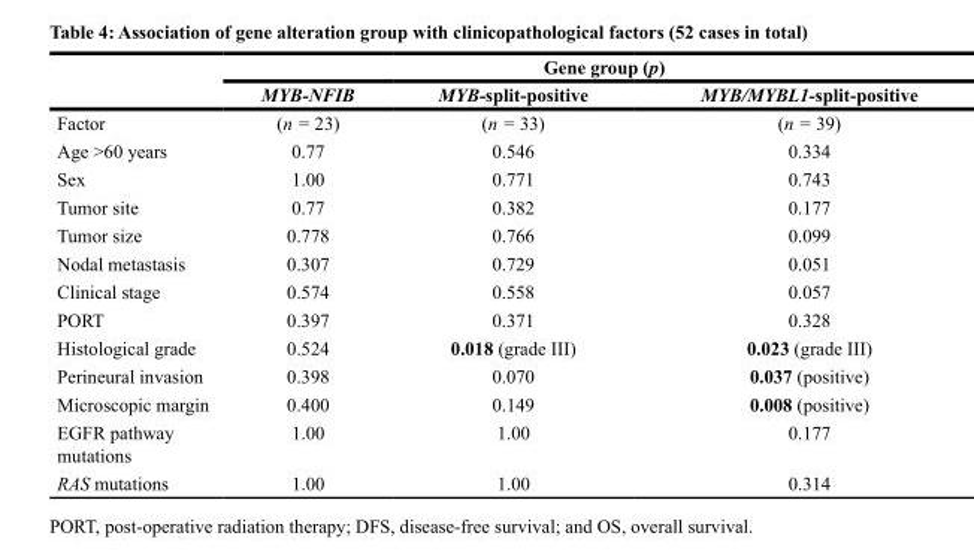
<table><thead><tr><td rowspan="2"></td><td colspan="3">Gene group (p)</td></tr><tr><td>MYB-NFIB</td><td>MYB-split-positive</td><td>MYB/MYBL1-split-positive</td></tr></thead><tbody><tr><td>Factor</td><td>(n = 23)</td><td>(n = 33)</td><td>(n = 39)</td></tr><tr><td>Age &gt;60 years</td><td>0.77</td><td>0.546</td><td>0.334</td></tr><tr><td>Sex</td><td>1.00</td><td>0.771</td><td>0.743</td></tr><tr><td>Tumor site</td><td>0.77</td><td>0.382</td><td>0.177</td></tr><tr><td>Tumor size</td><td>0.778</td><td>0.766</td><td>0.099</td></tr><tr><td>Nodal metastasis</td><td>0.307</td><td>0.729</td><td>0.051</td></tr><tr><td>Clinical stage</td><td>0.574</td><td>0.558</td><td>0.057</td></tr><tr><td>PORT</td><td>0.397</td><td>0.371</td><td>0.328</td></tr><tr><td>Histological grade</td><td>0.524</td><td>0.018 (grade III)</td><td>0.023 (grade III)</td></tr><tr><td>Perineural invasion</td><td>0.398</td><td>0.070</td><td>0.037 (positive)</td></tr><tr><td>Microscopic margin</td><td>0.400</td><td>0.149</td><td>0.008 (positive)</td></tr><tr><td>EGFR pathway mutations</td><td>1.00</td><td>1.00</td><td>0.177</td></tr><tr><td>RAS mutations</td><td>1.00</td><td>1.00</td><td>0.314</td></tr></tbody></table>